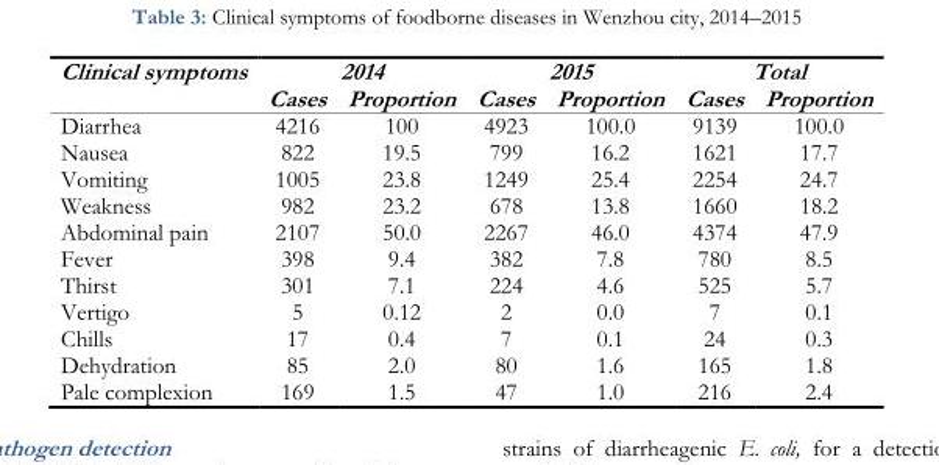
<table><thead><tr><td rowspan="2">Clinical symptoms</td><td colspan="2">2014</td><td colspan="2">2015</td><td colspan="2">Total</td></tr><tr><td>Cases</td><td>Proportion</td><td>Cases</td><td>Proportion</td><td>Cases</td><td>Proportion</td></tr></thead><tbody><tr><td>Diarrhea</td><td>4216</td><td>100</td><td>4923</td><td>100.0</td><td>9139</td><td>100.0</td></tr><tr><td>Nausea</td><td>822</td><td>19.5</td><td>799</td><td>16.2</td><td>1621</td><td>17.7</td></tr><tr><td>Vomiting</td><td>1005</td><td>23.8</td><td>1249</td><td>25.4</td><td>2254</td><td>24.7</td></tr><tr><td>Weakness</td><td>982</td><td>23.2</td><td>678</td><td>13.8</td><td>1660</td><td>18.2</td></tr><tr><td>Abdominal pain</td><td>2107</td><td>50.0</td><td>2267</td><td>46.0</td><td>4374</td><td>47.9</td></tr><tr><td>Fever</td><td>398</td><td>9.4</td><td>382</td><td>7.8</td><td>780</td><td>8.5</td></tr><tr><td>Thirst</td><td>301</td><td>7.1</td><td>224</td><td>4.6</td><td>525</td><td>5.7</td></tr><tr><td>Vertigo</td><td>5</td><td>0.12</td><td>2</td><td>0.0</td><td>7</td><td>0.1</td></tr><tr><td>Chills</td><td>17</td><td>0.4</td><td>7</td><td>0.1</td><td>24</td><td>0.3</td></tr><tr><td>Dehydration</td><td>85</td><td>2.0</td><td>80</td><td>1.6</td><td>165</td><td>1.8</td></tr><tr><td>Pale complexion</td><td>169</td><td>1.5</td><td>47</td><td>1.0</td><td>216</td><td>2.4</td></tr></tbody></table>